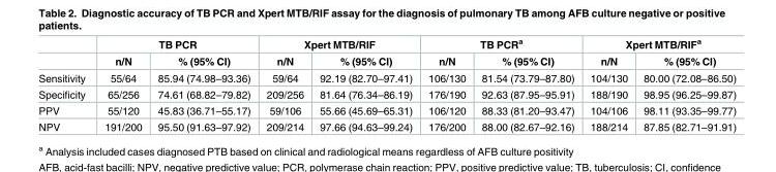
<table><thead><tr><td rowspan="2"></td><td colspan="2">TB PCR</td><td colspan="2">Xpert MTB/RIF</td><td colspan="2">TB PCR<sup>a</sup></td><td colspan="2">Xpert MTB/RIF<sup>a</sup></td></tr><tr><td>n/N</td><td>% (95% CI)</td><td>n/N</td><td>% (95% CI)</td><td>n/N</td><td>% (95% CI)</td><td>n/N</td><td>% (95% CI)</td></tr></thead><tbody><tr><td>Sensitivity</td><td>55/64</td><td>85.94 (74.98–93.36)</td><td>59/64</td><td>92.19 (82.70–97.41)</td><td>106/130</td><td>81.54 (73.79–87.80)</td><td>104/130</td><td>80.00 (72.08–86.50)</td></tr><tr><td>Specificity</td><td>65/256</td><td>74.61 (68.82–79.82)</td><td>209/256</td><td>81.64 (76.34–86.19)</td><td>176/190</td><td>92.63 (87.95–95.91)</td><td>188/190</td><td>98.95 (96.25–99.87)</td></tr><tr><td>PPV</td><td>55/120</td><td>45.83 (36.71–55.17)</td><td>59/106</td><td>55.66 (45.69–65.31)</td><td>106/120</td><td>88.33 (81.20–93.47)</td><td>104/106</td><td>98.11 (93.35–99.77)</td></tr><tr><td>NPV</td><td>191/200</td><td>95.50 (91.63–97.92)</td><td>209/214</td><td>97.66 (94.63–99.24)</td><td>176/200</td><td>88.00 (82.67–92.16)</td><td>188/214</td><td>87.85 (82.71–91.91)</td></tr></tbody></table>